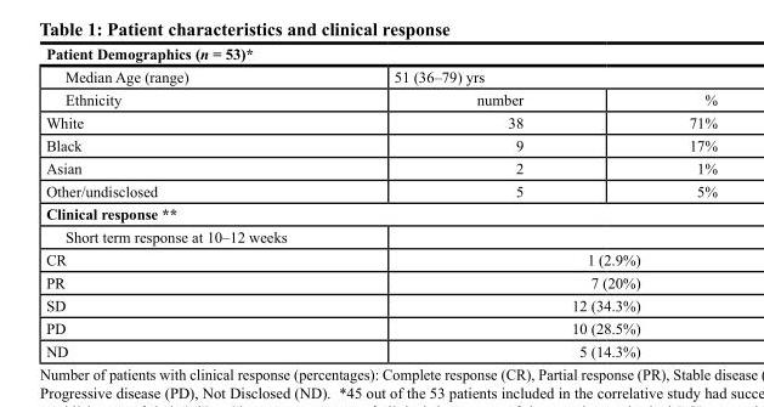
<table><thead><tr><td colspan="3">Patient demographics (n = 53)*</td></tr><tr><td rowspan="2">Median Age (range) Ethnicity</td><td colspan="2">51 (36–79) yrs</td></tr><tr><td>number</td><td>%</td></tr></thead><tbody><tr><td>White</td><td>38</td><td>71%</td></tr><tr><td>Black</td><td>9</td><td>17%</td></tr><tr><td>Asian</td><td>2</td><td>1%</td></tr><tr><td>Other/undisclosed</td><td>5</td><td>5%</td></tr><tr><td colspan="3">clinical response **</td></tr><tr><td colspan="3">Short term response at 10–12 weeks</td></tr><tr><td>CR</td><td colspan="2">1 (2.9%)</td></tr><tr><td>PR</td><td colspan="2">7 (20%)</td></tr><tr><td>SD</td><td colspan="2">12 (34.3%)</td></tr><tr><td>PD</td><td colspan="2">10 (28.5%)</td></tr><tr><td>ND</td><td colspan="2">5 (14.3%)</td></tr></tbody></table>